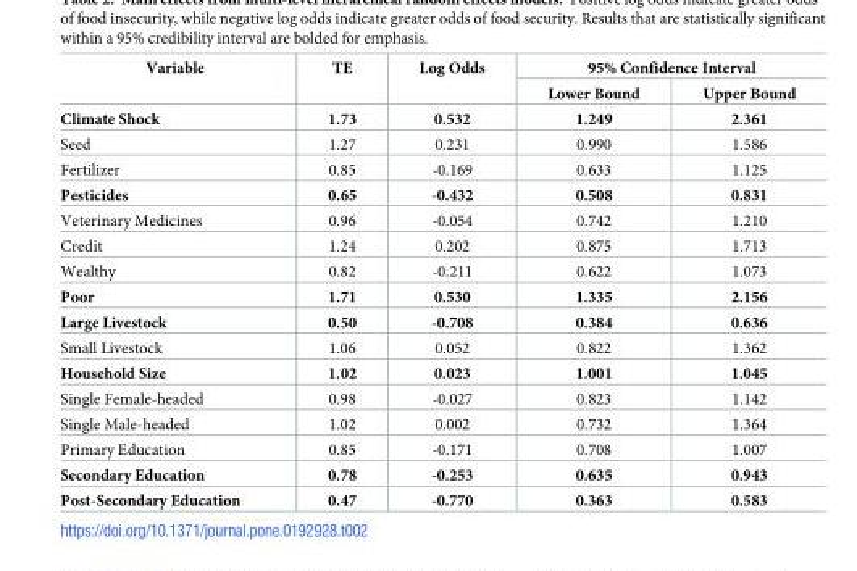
<table><thead><tr><td rowspan="2">Variable</td><td rowspan="2">TE</td><td rowspan="2">Log Odds</td><td colspan="2">95% Confidence Interval</td></tr><tr><td>Lower Bound</td><td>Upper Bound</td></tr></thead><tbody><tr><td>Climate Shock</td><td>1.73</td><td>0.532</td><td>1.249</td><td>2.361</td></tr><tr><td>Seed</td><td>1.27</td><td>0.231</td><td>0.990</td><td>1.586</td></tr><tr><td>Fertilizer</td><td>0.85</td><td>-0.169</td><td>0.633</td><td>1.125</td></tr><tr><td>Pesticides</td><td>0.65</td><td>-0.432</td><td>0.508</td><td>0.831</td></tr><tr><td>Veterinary Medicines</td><td>0.96</td><td>-0.054</td><td>0.742</td><td>1.210</td></tr><tr><td>Credit</td><td>1.24</td><td>0.202</td><td>0.875</td><td>1.713</td></tr><tr><td>Wealthy</td><td>0.82</td><td>-0.211</td><td>0.622</td><td>1.073</td></tr><tr><td>Poor</td><td>1.71</td><td>0.530</td><td>1.335</td><td>2.156</td></tr><tr><td>Large Livestock</td><td>0.50</td><td>-0.708</td><td>0.384</td><td>0.636</td></tr><tr><td>Small Livestock</td><td>1.06</td><td>0.052</td><td>0.822</td><td>1.362</td></tr><tr><td>Household Size</td><td>1.02</td><td>0.023</td><td>1.001</td><td>1.045</td></tr><tr><td>Single Female-headed</td><td>0.98</td><td>-0.027</td><td>0.823</td><td>1.142</td></tr><tr><td>Single Male-headed</td><td>1.02</td><td>0.002</td><td>0.732</td><td>1.364</td></tr><tr><td>Primary Education</td><td>0.85</td><td>-0.171</td><td>0.708</td><td>1.007</td></tr><tr><td>Secondary Education</td><td>0.78</td><td>-0.253</td><td>0.635</td><td>0.943</td></tr><tr><td>Post-Secondary Education</td><td>0.47</td><td>-0.770</td><td>0.363</td><td>0.583</td></tr></tbody></table>